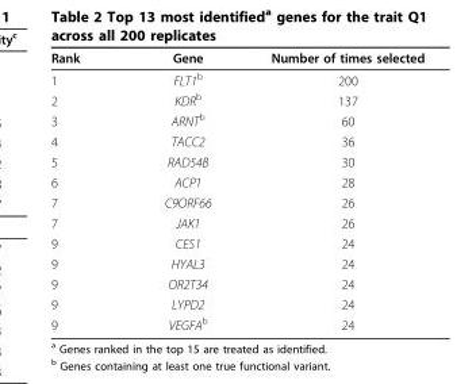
<table><thead><tr><td>Rank</td><td>Gene</td><td>Number of times selected</td></tr></thead><tbody><tr><td>1</td><td>FLT1<sup>b</sup></td><td>200</td></tr><tr><td>2</td><td>KDR<sup>b</sup></td><td>137</td></tr><tr><td>3</td><td>ARNT<sup>b</sup></td><td>60</td></tr><tr><td>4</td><td>TACC2</td><td>36</td></tr><tr><td>5</td><td>RAD54B</td><td>30</td></tr><tr><td>6</td><td>ACP1</td><td>28</td></tr><tr><td>7</td><td>C9ORF66</td><td>26</td></tr><tr><td>7</td><td>JAK1</td><td>26</td></tr><tr><td>9</td><td>CES1</td><td>24</td></tr><tr><td>9</td><td>HYAL3</td><td>24</td></tr><tr><td>9</td><td>OR2T34</td><td>24</td></tr><tr><td>9</td><td>LYPD2</td><td>24</td></tr><tr><td>9</td><td>VEGFA<sup>b</sup></td><td>24</td></tr></tbody></table>